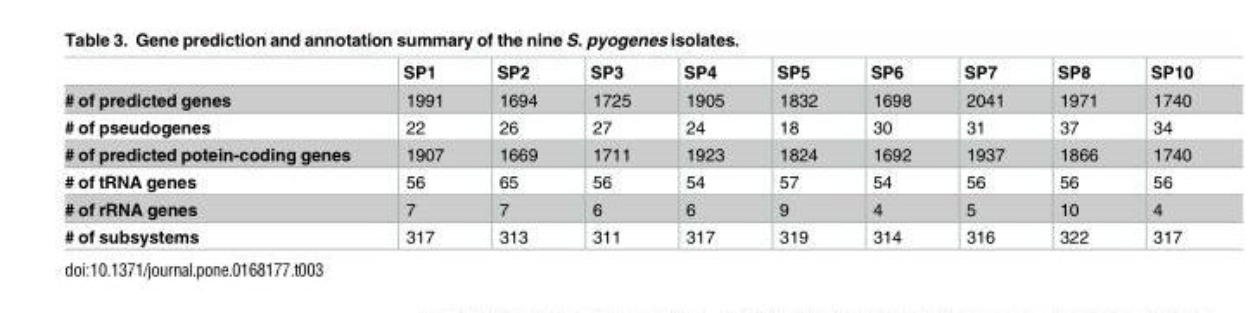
<table><thead><tr><td></td><td>SP1</td><td>SP2</td><td>SP3</td><td>SP4</td><td>SP5</td><td>SP6</td><td>SP7</td><td>SP8</td><td>SP10</td></tr></thead><tbody><tr><td># of predicted genes</td><td>1991</td><td>1694</td><td>1725</td><td>1905</td><td>1832</td><td>1698</td><td>2041</td><td>1971</td><td>1740</td></tr><tr><td># of pseudogenes</td><td>22</td><td>26</td><td>27</td><td>24</td><td>18</td><td>30</td><td>31</td><td>37</td><td>34</td></tr><tr><td># of predicted potein-coding genes</td><td>1907</td><td>1669</td><td>1711</td><td>1923</td><td>1824</td><td>1692</td><td>1937</td><td>1866</td><td>1740</td></tr><tr><td># of tRNA genes</td><td>56</td><td>65</td><td>56</td><td>54</td><td>57</td><td>54</td><td>56</td><td>56</td><td>56</td></tr><tr><td># of rRNA genes</td><td>7</td><td>7</td><td>6</td><td>6</td><td>9</td><td>4</td><td>5</td><td>10</td><td>4</td></tr><tr><td># of subsystems</td><td>317</td><td>313</td><td>311</td><td>317</td><td>319</td><td>314</td><td>316</td><td>322</td><td>317</td></tr></tbody></table>